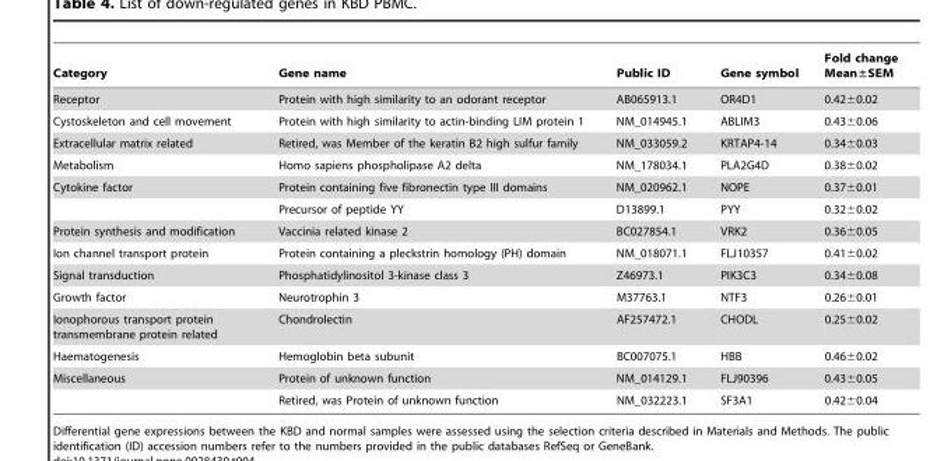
<table><thead><tr><td>Category</td><td>Gene name</td><td>Public ID</td><td>Gene symbol</td><td>Fold change Mean±SEM</td></tr></thead><tbody><tr><td>Receptor</td><td>Protein with high similarity to an odorant receptor</td><td>AB065913.1</td><td>OR4D1</td><td>0.42±0.02</td></tr><tr><td>Cystoskeleton and cell movement</td><td>Protein with high similarity to actin-binding LIM protein 1</td><td>NM_014945.1</td><td>ABLIM3</td><td>0.43±0.06</td></tr><tr><td>Extracellular matrix related</td><td>Retired, was Member of the keratin B2 high sulfur family</td><td>NM_033059.2</td><td>KRTAP4-14</td><td>0.34±0.03</td></tr><tr><td>Metabolism</td><td>Homo sapiens phospholipase A2 delta</td><td>NM_178034.1</td><td>PLA2G4D</td><td>0.38±0.02</td></tr><tr><td rowspan="2">Cytokine factor</td><td>Protein containing five fibronectin type III domains</td><td>NM_020962.1</td><td>NOPE</td><td>0.37±0.01</td></tr><tr><td>Precursor of peptide YY</td><td>D13899.1</td><td>PYY</td><td>0.32±0.02</td></tr><tr><td>Protein synthesis and modification</td><td>Vaccinia related kinase 2</td><td>BC027854.1</td><td>VRK2</td><td>0.36±0.05</td></tr><tr><td>Ion channel transport protein</td><td>Protein containing a pleckstrin homology (PH) domain</td><td>NM_018071.1</td><td>FLJ10357</td><td>0.41±0.02</td></tr><tr><td>Signal transduction</td><td>Phosphatidylinositol 3-kinase class 3</td><td>Z46973.1</td><td>PIK3C3</td><td>0.34±0.08</td></tr><tr><td>Growth factor</td><td>Neurotrophin 3</td><td>M37763.1</td><td>NTF3</td><td>0.26±0.01</td></tr><tr><td>Ionophorous transport protein transmembrane protein related</td><td>Chondrolectin</td><td>AF257472.1</td><td>CHODL</td><td>0.25±0.02</td></tr><tr><td>Haematogenesis</td><td>Hemoglobin beta subunit</td><td>BC007075.1</td><td>HBB</td><td>0.46±0.02</td></tr><tr><td rowspan="2">Miscellaneous</td><td>Protein of unknown function</td><td>NM_014129.1</td><td>FLJ90396</td><td>0.43±0.05</td></tr><tr><td>Retired, was Protein of unknown function</td><td>NM_032223.1</td><td>SF3A1</td><td>0.42±0.04</td></tr></tbody></table>